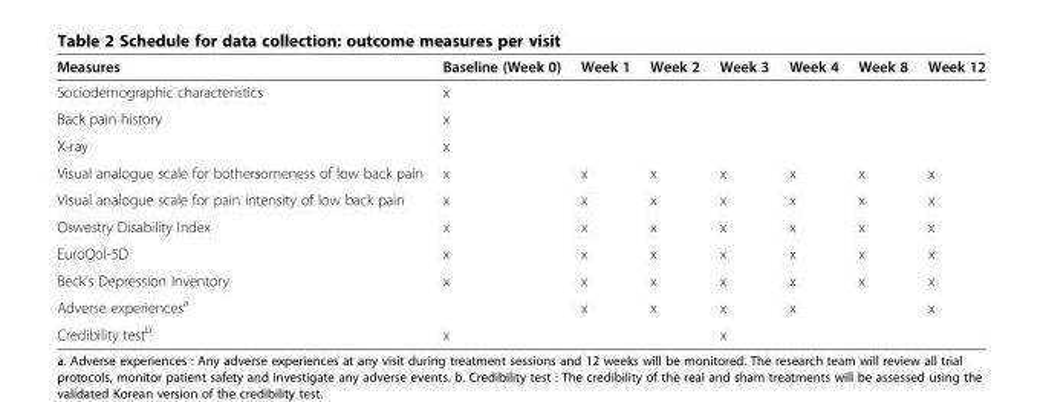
<table><thead><tr><td>Measures</td><td>Baseline (Week 0)</td><td>Week 1</td><td>Week 2</td><td>Week 3</td><td>Week 4</td><td>Week 8</td><td>Week 12</td></tr></thead><tbody><tr><td>Sociodemographic characteristics</td><td>x</td><td></td><td></td><td></td><td></td><td></td><td></td></tr><tr><td>Back pain history</td><td>x</td><td></td><td></td><td></td><td></td><td></td><td></td></tr><tr><td>X-ray</td><td>x</td><td></td><td></td><td></td><td></td><td></td><td></td></tr><tr><td>Visual analogue scale for bothersomeness of low back pain</td><td>x</td><td>x</td><td>x</td><td>x</td><td>x</td><td>x</td><td>x</td></tr><tr><td>Visual analogue scale for pain intensity of low back pain</td><td>x</td><td>x</td><td>x</td><td>x</td><td>x</td><td>x</td><td>x</td></tr><tr><td>Oswestry Disability Index</td><td>x</td><td>x</td><td>x</td><td>x</td><td>x</td><td>x</td><td>x</td></tr><tr><td>EuroQol-5D</td><td>x</td><td>x</td><td>x</td><td>x</td><td>x</td><td>x</td><td>x</td></tr><tr><td>Beck&#x27;s Depression Inventory</td><td>x</td><td>x</td><td>x</td><td>x</td><td>x</td><td>x</td><td>x</td></tr><tr><td>Adverse experiences<sup>a</sup></td><td></td><td>x</td><td>x</td><td>x</td><td>x</td><td></td><td>x</td></tr><tr><td>Credibility test<sup>b</sup></td><td>x</td><td></td><td></td><td>x</td><td></td><td></td><td></td></tr></tbody></table>